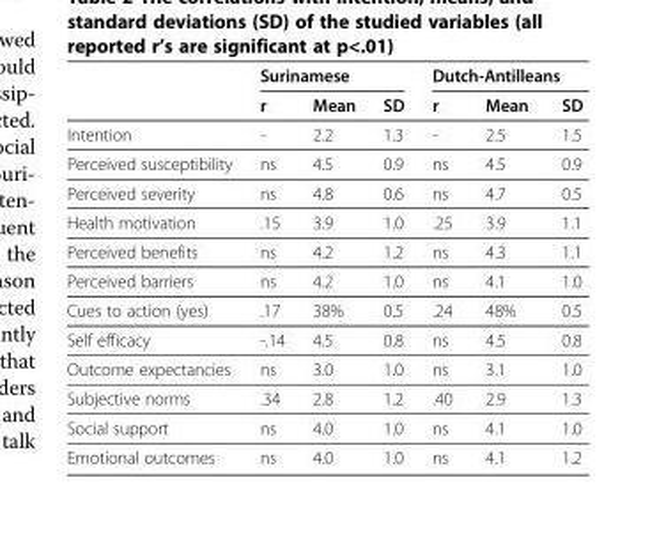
<table><thead><tr><td rowspan="2"></td><td colspan="3">Surinamese</td><td colspan="3">Dutch-Antilleans</td></tr><tr><td>r</td><td>Mean</td><td>SD</td><td>r</td><td>Mean</td><td>SD</td></tr></thead><tbody><tr><td>Intention</td><td>-</td><td>2.2</td><td>1.3</td><td>-</td><td>2.5</td><td>1.5</td></tr><tr><td>Perceived susceptibility</td><td>ns</td><td>4.5</td><td>0.9</td><td>ns</td><td>4.5</td><td>0.9</td></tr><tr><td>Perceived severity</td><td>ns</td><td>4.8</td><td>0.6</td><td>ns</td><td>4.7</td><td>0.5</td></tr><tr><td>Health motivation</td><td>.15</td><td>3.9</td><td>1.0</td><td>.25</td><td>3.9</td><td>1.1</td></tr><tr><td>Perceived benefits</td><td>ns</td><td>4.2</td><td>1.2</td><td>ns</td><td>4.3</td><td>1.1</td></tr><tr><td>Perceived barriers</td><td>ns</td><td>4.2</td><td>1.0</td><td>ns</td><td>4.1</td><td>1.0</td></tr><tr><td>Cues to action (yes)</td><td>.17</td><td>38%</td><td>0.5</td><td>.24</td><td>48%</td><td>0.5</td></tr><tr><td>Self efficacy</td><td>-.14</td><td>4.5</td><td>0.8</td><td>ns</td><td>4.5</td><td>0.8</td></tr><tr><td>Outcome expectancies</td><td>ns</td><td>3.0</td><td>1.0</td><td>ns</td><td>3.1</td><td>1.0</td></tr><tr><td>Subjective norms</td><td>.34</td><td>2.8</td><td>1.2</td><td>.40</td><td>2.9</td><td>1.3</td></tr><tr><td>Social support</td><td>ns</td><td>4.0</td><td>1.0</td><td>ns</td><td>4.1</td><td>1.0</td></tr><tr><td>Emotional outcomes</td><td>ns</td><td>4.0</td><td>1.0</td><td>ns</td><td>4.1</td><td>1.2</td></tr></tbody></table>